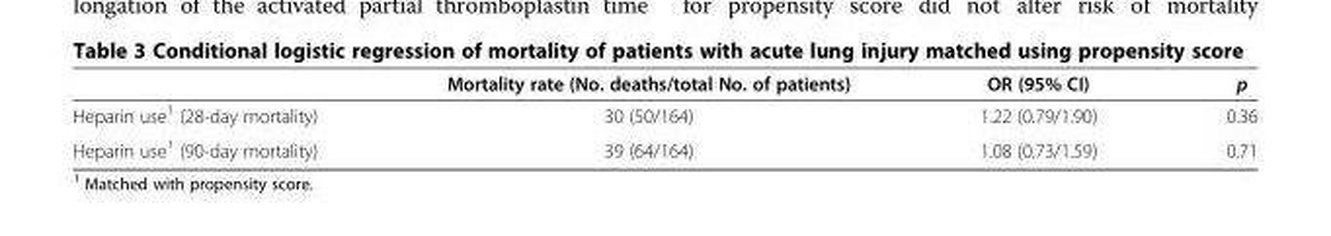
<table><thead><tr><td></td><td>Mortality rate (No. deaths/total No. of patients)</td><td>OR (95% CI)</td><td>p</td></tr></thead><tbody><tr><td>Heparin use<sup>1</sup> (28-day mortality)</td><td>30 (50/164)</td><td>1.22 (0.79/1.90)</td><td>0.36</td></tr><tr><td>Heparin use<sup>1</sup> (90-day mortality)</td><td>39 (64/164)</td><td>1.08 (0.73/1.59)</td><td>0.71</td></tr></tbody></table>